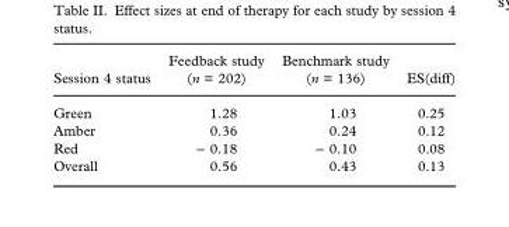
<table><thead><tr><td>Session 4 status</td><td>Feedback study (n = 202)</td><td>Benchmark study (n = 136)</td><td>ES(diff)</td></tr></thead><tbody><tr><td>Green</td><td>1.28</td><td>1.03</td><td>0.25</td></tr><tr><td>Amber</td><td>0.36</td><td>0.24</td><td>0.12</td></tr><tr><td>Red</td><td>− 0.18</td><td>− 0.10</td><td>0.08</td></tr><tr><td>Overall</td><td>0.56</td><td>0.43</td><td>0.13</td></tr></tbody></table>